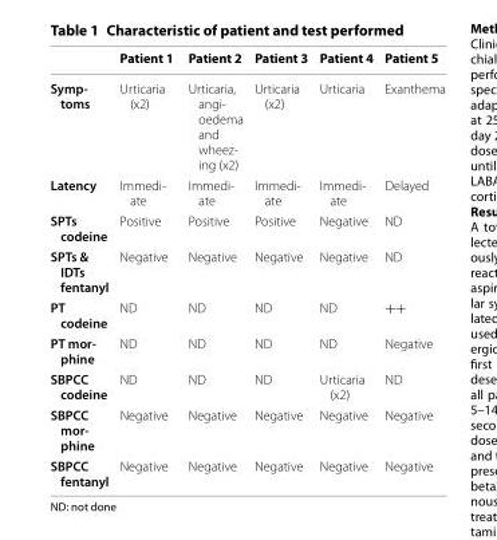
<table><thead><tr><td></td><td>Patient 1</td><td>Patient 2</td><td>Patient 3</td><td>Patient 4</td><td>Patient 5</td></tr></thead><tbody><tr><td>Symp- toms</td><td>Urticaria (x2)</td><td>Urticaria, angi‑ oedema and wheez‑ ing (x2)</td><td>Urticaria (x2)</td><td>Urticaria</td><td>Exanthema</td></tr><tr><td>Latency</td><td>Immedi‑ ate</td><td>Immedi‑ ate</td><td>Immedi‑ ate</td><td>Immedi‑ ate</td><td>Delayed</td></tr><tr><td>SPTs codeine</td><td>Positive</td><td>Positive</td><td>Positive</td><td>Negative</td><td>ND</td></tr><tr><td>SPTs &amp; IDTs fentanyl</td><td>Negative</td><td>Negative</td><td>Negative</td><td>Negative</td><td>ND</td></tr><tr><td>PT codeine</td><td>ND</td><td>ND</td><td>ND</td><td>ND</td><td>++</td></tr><tr><td>PT mor- phine</td><td>ND</td><td>ND</td><td>ND</td><td>ND</td><td>Negative</td></tr><tr><td>SBPCC codeine</td><td>ND</td><td>ND</td><td>ND</td><td>Urticaria (x2)</td><td>ND</td></tr><tr><td>SBPCC mor- phine</td><td>Negative</td><td>Negative</td><td>Negative</td><td>Negative</td><td>Negative</td></tr><tr><td>SBPCC fentanyl</td><td>Negative</td><td>Negative</td><td>Negative</td><td>Negative</td><td>Negative</td></tr></tbody></table>